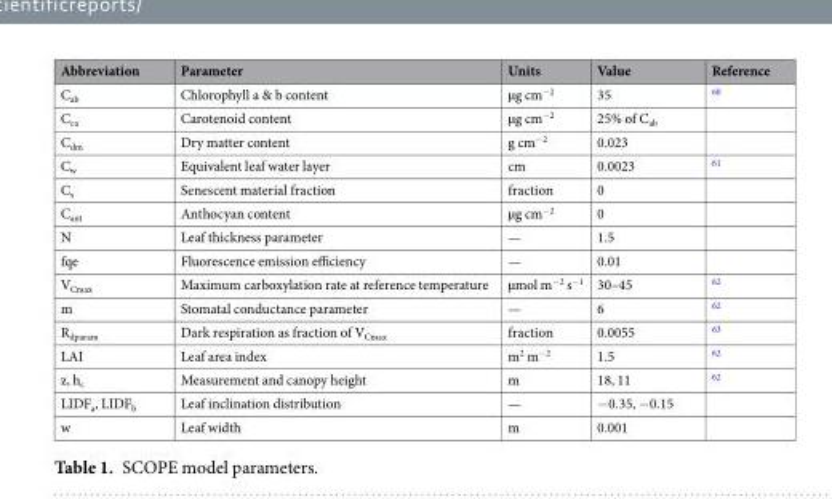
<table><thead><tr><td>Abbreviation</td><td>Parameter</td><td>Units</td><td>Value</td><td>Reference</td></tr></thead><tbody><tr><td>C<sub>ab</sub></td><td>Chlorophyll a &amp; b content</td><td>µg cm<sup>−2</sup></td><td>35</td><td><sup>60</sup></td></tr><tr><td>C<sub>ca</sub></td><td>Carotenoid content</td><td>µg cm<sup>−2</sup></td><td>25% of C<sub>ab</sub></td><td></td></tr><tr><td>C<sub>dm</sub></td><td>Dry matter content</td><td>g cm<sup>−2</sup></td><td>0.023</td><td></td></tr><tr><td>C<sub>w</sub></td><td>Equivalent leaf water layer</td><td>cm</td><td>0.0023</td><td><sup>61</sup></td></tr><tr><td>C<sub>s</sub></td><td>Senescent material fraction</td><td>fraction</td><td>0</td><td></td></tr><tr><td>C<sub>ant</sub></td><td>Anthocyan content</td><td>µg cm<sup>−2</sup></td><td>0</td><td></td></tr><tr><td>N</td><td>Leaf thickness parameter</td><td>—</td><td>1.5</td><td></td></tr><tr><td>fqe</td><td>Fluorescence emission efficiency</td><td>—</td><td>0.01</td><td></td></tr><tr><td>V<sub>Cmax</sub></td><td>Maximum carboxylation rate at reference temperature</td><td>µmol m<sup>−2</sup> s<sup>−1</sup></td><td>30–45</td><td><sup>62</sup></td></tr><tr><td>m</td><td>Stomatal conductance parameter</td><td>—</td><td>6</td><td><sup>62</sup></td></tr><tr><td>R<sub>dparam</sub></td><td>Dark respiration as fraction of V<sub>Cmax</sub></td><td>fraction</td><td>0.0055</td><td><sup>63</sup></td></tr><tr><td>LAI</td><td>Leaf area index</td><td>m<sup>2</sup> m<sup>−2</sup></td><td>1.5</td><td><sup>62</sup></td></tr><tr><td>z, h<sub>c</sub></td><td>Measurement and canopy height</td><td>m</td><td>18, 11</td><td><sup>62</sup></td></tr><tr><td>LIDF<sub>a</sub>, LIDF<sub>b</sub></td><td>Leaf inclination distribution</td><td>—</td><td>−0.35, −0.15</td><td></td></tr><tr><td>w</td><td>Leaf width</td><td>m</td><td>0.001</td><td></td></tr></tbody></table>